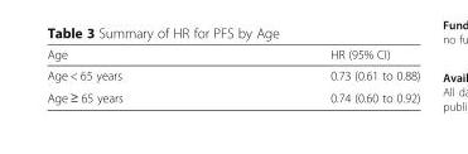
<table><thead><tr><td>Age</td><td>HR (95% CI)</td></tr></thead><tbody><tr><td>Age &lt; 65 years</td><td>0.73 (0.61 to 0.88)</td></tr><tr><td>Age ≥ 65 years</td><td>0.74 (0.60 to 0.92)</td></tr></tbody></table>